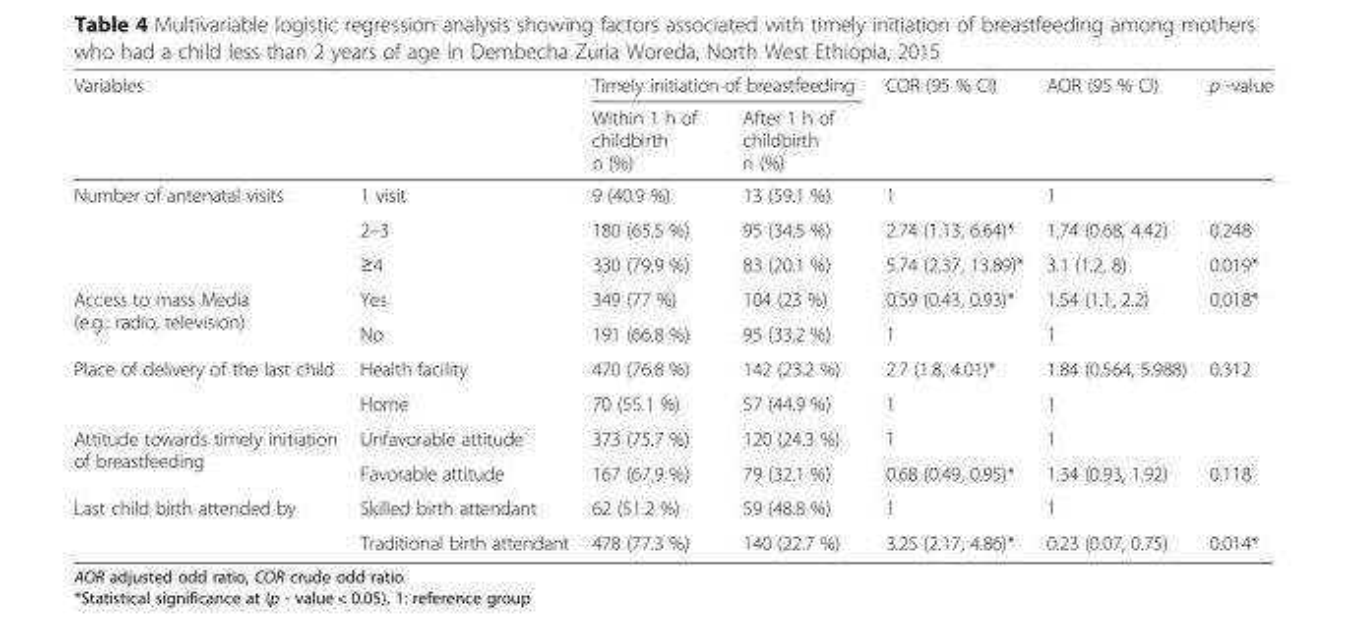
<table><thead><tr><td colspan="2">Variables</td><td colspan="2">Timely initiation of breastfeeding</td><td rowspan="2">COR (95 % CI)</td><td rowspan="2">AOR (95 % CI)</td><td rowspan="2">p -value</td></tr><tr><td></td><td></td><td>Within 1 h of childbirth n (%)</td><td>After 1 h of childbirth n (%)</td></tr></thead><tbody><tr><td rowspan="3">Number of antenatal visits</td><td>1 visit</td><td>9 (40.9 %)</td><td>13 (59.1 %)</td><td>1</td><td>1</td><td></td></tr><tr><td>2–3</td><td>180 (65.5 %)</td><td>95 (34.5 %)</td><td>2.74 (1.13, 6.64)*</td><td>1.74 (0.68, 4.42)</td><td>0.248</td></tr><tr><td>≥4</td><td>330 (79.9 %)</td><td>83 (20.1 %)</td><td>5.74 (2.37, 13.89)*</td><td>3.1 (1.2, 8)</td><td>0.019*</td></tr><tr><td rowspan="2">Access to mass Media (e.g.: radio, television)</td><td>Yes</td><td>349 (77 %)</td><td>104 (23 %)</td><td>0.59 (0.43, 0.93)*</td><td>1.54 (1.1, 2.2)</td><td>0.018*</td></tr><tr><td>No</td><td>191 (66.8 %)</td><td>95 (33.2 %)</td><td>1</td><td>1</td><td></td></tr><tr><td rowspan="2">Place of delivery of the last child</td><td>Health facility</td><td>470 (76.8 %)</td><td>142 (23.2 %)</td><td>2.7 (1.8, 4.01)*</td><td>1.84 (0.564, 5.988)</td><td>0.312</td></tr><tr><td>Home</td><td>70 (55.1 %)</td><td>57 (44.9 %)</td><td>1</td><td>1</td><td></td></tr><tr><td rowspan="2">Attitude towards timely initiation of breastfeeding</td><td>Unfavorable attitude</td><td>373 (75.7 %)</td><td>120 (24.3 %)</td><td>1</td><td>1</td><td></td></tr><tr><td>Favorable attitude</td><td>167 (67.9 %)</td><td>79 (32.1 %)</td><td>0.68 (0.49, 0.95)*</td><td>1.34 (0.93, 1.92)</td><td>0.118</td></tr><tr><td rowspan="2">Last child birth attended by</td><td>Skilled birth attendant</td><td>62 (51.2 %)</td><td>59 (48.8 %)</td><td>1</td><td>1</td><td></td></tr><tr><td>Traditional birth attendant</td><td>478 (77.3 %)</td><td>140 (22.7 %)</td><td>3.25 (2.17, 4.86)*</td><td>0.23 (0.07, 0.75)</td><td>0.014*</td></tr></tbody></table>